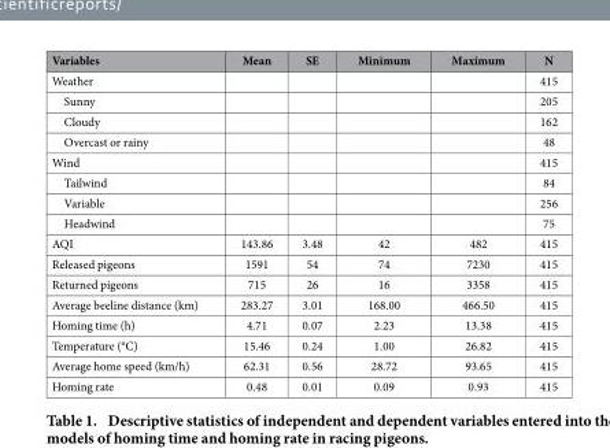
<table><thead><tr><td>Variables</td><td>Mean</td><td>SE</td><td>Minimum</td><td>Maximum</td><td>N</td></tr></thead><tbody><tr><td>Weather</td><td></td><td></td><td></td><td></td><td>415</td></tr><tr><td>Sunny</td><td></td><td></td><td></td><td></td><td>205</td></tr><tr><td>Cloudy</td><td></td><td></td><td></td><td></td><td>162</td></tr><tr><td>Overcast or rainy</td><td></td><td></td><td></td><td></td><td>48</td></tr><tr><td>Wind</td><td></td><td></td><td></td><td></td><td>415</td></tr><tr><td>Tailwind</td><td></td><td></td><td></td><td></td><td>84</td></tr><tr><td>Variable</td><td></td><td></td><td></td><td></td><td>256</td></tr><tr><td>Headwind</td><td></td><td></td><td></td><td></td><td>75</td></tr><tr><td>AQI</td><td>143.86</td><td>3.48</td><td>42</td><td>482</td><td>415</td></tr><tr><td>Released pigeons</td><td>1591</td><td>54</td><td>74</td><td>7230</td><td>415</td></tr><tr><td>Returned pigeons</td><td>715</td><td>26</td><td>16</td><td>3358</td><td>415</td></tr><tr><td>Average beeline distance (km)</td><td>283.27</td><td>3.01</td><td>168.00</td><td>466.50</td><td>415</td></tr><tr><td>Homing time (h)</td><td>4.71</td><td>0.07</td><td>2.23</td><td>13.38</td><td>415</td></tr><tr><td>Temperature (°C)</td><td>15.46</td><td>0.24</td><td>1.00</td><td>26.82</td><td>415</td></tr><tr><td>Average home speed (km/h)</td><td>62.31</td><td>0.56</td><td>28.72</td><td>93.65</td><td>415</td></tr><tr><td>Homing rate</td><td>0.48</td><td>0.01</td><td>0.09</td><td>0.93</td><td>415</td></tr></tbody></table>